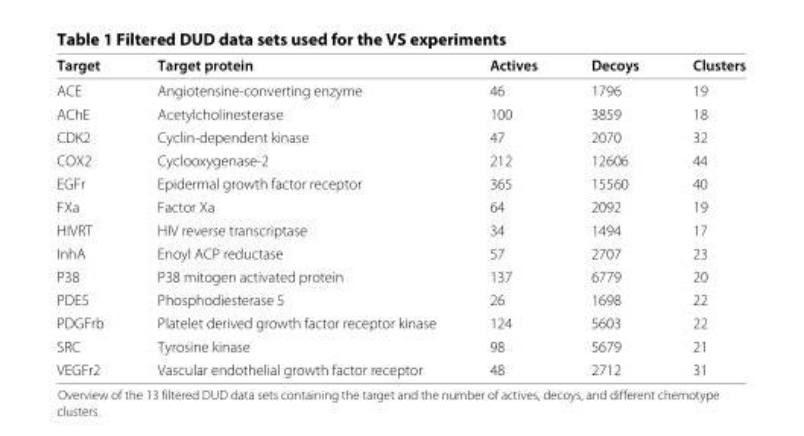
<table><thead><tr><td>Target</td><td>Target protein</td><td>Actives</td><td>Decoys</td><td>Clusters</td></tr></thead><tbody><tr><td>ACE</td><td>Angiotensine-converting enzyme</td><td>46</td><td>1796</td><td>19</td></tr><tr><td>AChE</td><td>Acetylcholinesterase</td><td>100</td><td>3859</td><td>18</td></tr><tr><td>CDK2</td><td>Cyclin-dependent kinase</td><td>47</td><td>2070</td><td>32</td></tr><tr><td>COX2</td><td>Cyclooxygenase-2</td><td>212</td><td>12606</td><td>44</td></tr><tr><td>EGFr</td><td>Epidermal growth factor receptor</td><td>365</td><td>15560</td><td>40</td></tr><tr><td>FXa</td><td>Factor Xa</td><td>64</td><td>2092</td><td>19</td></tr><tr><td>HIVRT</td><td>HIV reverse transcriptase</td><td>34</td><td>1494</td><td>17</td></tr><tr><td>InhA</td><td>Enoyl ACP reductase</td><td>57</td><td>2707</td><td>23</td></tr><tr><td>P38</td><td>P38 mitogen activated protein</td><td>137</td><td>6779</td><td>20</td></tr><tr><td>PDE5</td><td>Phosphodiesterase 5</td><td>26</td><td>1698</td><td>22</td></tr><tr><td>PDGFrb</td><td>Platelet derived growth factor receptor kinase</td><td>124</td><td>5603</td><td>22</td></tr><tr><td>SRC</td><td>Tyrosine kinase</td><td>98</td><td>5679</td><td>21</td></tr><tr><td>VEGFr2</td><td>Vascular endothelial growth factor receptor</td><td>48</td><td>2712</td><td>31</td></tr></tbody></table>